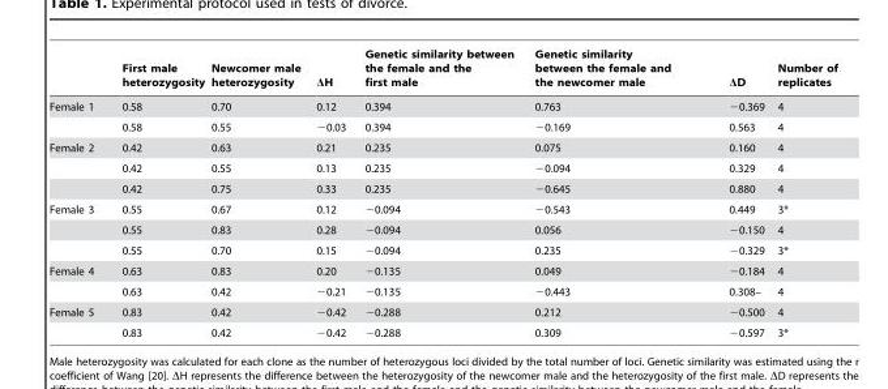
<table><thead><tr><td></td><td>First male heterozygosity</td><td>Newcomer male heterozygosity</td><td>ΔH</td><td>Genetic similarity between the female and the first male</td><td>Genetic similarity between the female and the newcomer male</td><td>ΔD</td><td>Number of replicates</td></tr></thead><tbody><tr><td rowspan="2">Female 1</td><td>0.58</td><td>0.70</td><td>0.12</td><td>0.394</td><td>0.763</td><td>−0.369</td><td>4</td></tr><tr><td>0.58</td><td>0.55</td><td>−0.03</td><td>0.394</td><td>−0.169</td><td>0.563</td><td>4</td></tr><tr><td rowspan="3">Female 2</td><td>0.42</td><td>0.63</td><td>0.21</td><td>0.235</td><td>0.075</td><td>0.160</td><td>4</td></tr><tr><td>0.42</td><td>0.55</td><td>0.13</td><td>0.235</td><td>−0.094</td><td>0.329</td><td>4</td></tr><tr><td>0.42</td><td>0.75</td><td>0.33</td><td>0.235</td><td>−0.645</td><td>0.880</td><td>4</td></tr><tr><td rowspan="3">Female 3</td><td>0.55</td><td>0.67</td><td>0.12</td><td>−0.094</td><td>−0.543</td><td>0.449</td><td>3*</td></tr><tr><td>0.55</td><td>0.83</td><td>0.28</td><td>−0.094</td><td>0.056</td><td>−0.150</td><td>4</td></tr><tr><td>0.55</td><td>0.70</td><td>0.15</td><td>−0.094</td><td>0.235</td><td>−0.329</td><td>3*</td></tr><tr><td rowspan="2">Female 4</td><td>0.63</td><td>0.83</td><td>0.20</td><td>−0.135</td><td>0.049</td><td>−0.184</td><td>4</td></tr><tr><td>0.63</td><td>0.42</td><td>−0.21</td><td>−0.135</td><td>−0.443</td><td>0.308–</td><td>4</td></tr><tr><td rowspan="2">Female 5</td><td>0.83</td><td>0.42</td><td>−0.42</td><td>−0.288</td><td>0.212</td><td>−0.500</td><td>4</td></tr><tr><td>0.83</td><td>0.42</td><td>−0.42</td><td>−0.288</td><td>0.309</td><td>−0.597</td><td>3*</td></tr></tbody></table>